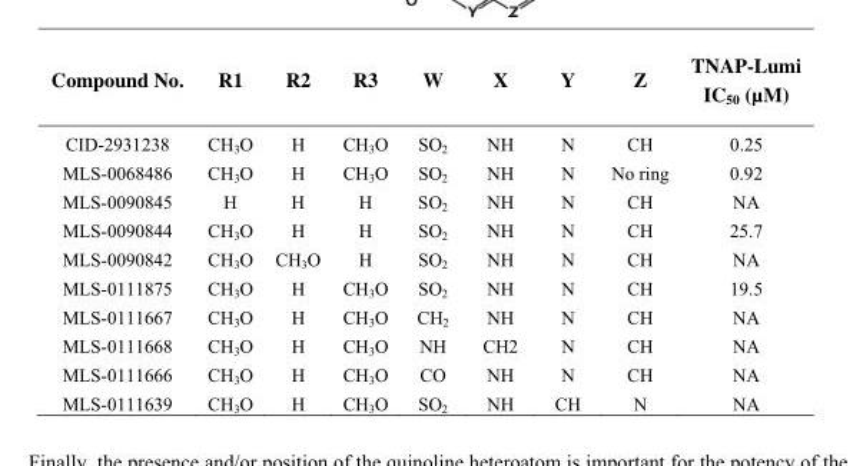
<table><thead><tr><td>Compound No.</td><td>R1</td><td>R2</td><td>R3</td><td>W</td><td>X</td><td>Y</td><td>Z</td><td>TNAP-Lumi IC<sub>50</sub> (µM)</td></tr></thead><tbody><tr><td>CID-2931238</td><td>CH<sub>3</sub>O</td><td>H</td><td>CH<sub>3</sub>O</td><td>SO<sub>2</sub></td><td>NH</td><td>N</td><td>CH</td><td>0.25</td></tr><tr><td>MLS-0068486</td><td>CH<sub>3</sub>O</td><td>H</td><td>CH<sub>3</sub>O</td><td>SO<sub>2</sub></td><td>NH</td><td>N</td><td>No ring</td><td>0.92</td></tr><tr><td>MLS-0090845</td><td>H</td><td>H</td><td>H</td><td>SO<sub>2</sub></td><td>NH</td><td>N</td><td>CH</td><td>NA</td></tr><tr><td>MLS-0090844</td><td>CH<sub>3</sub>O</td><td>H</td><td>H</td><td>SO<sub>2</sub></td><td>NH</td><td>N</td><td>CH</td><td>25.7</td></tr><tr><td>MLS-0090842</td><td>CH<sub>3</sub>O</td><td>CH<sub>3</sub>O</td><td>H</td><td>SO<sub>2</sub></td><td>NH</td><td>N</td><td>CH</td><td>NA</td></tr><tr><td>MLS-0111875</td><td>CH<sub>3</sub>O</td><td>H</td><td>CH<sub>3</sub>O</td><td>SO<sub>2</sub></td><td>NH</td><td>N</td><td>CH</td><td>19.5</td></tr><tr><td>MLS-0111667</td><td>CH<sub>3</sub>O</td><td>H</td><td>CH<sub>3</sub>O</td><td>CH<sub>2</sub></td><td>NH</td><td>N</td><td>CH</td><td>NA</td></tr><tr><td>MLS-0111668</td><td>CH<sub>3</sub>O</td><td>H</td><td>CH<sub>3</sub>O</td><td>NH</td><td>CH2</td><td>N</td><td>CH</td><td>NA</td></tr><tr><td>MLS-0111666</td><td>CH<sub>3</sub>O</td><td>H</td><td>CH<sub>3</sub>O</td><td>CO</td><td>NH</td><td>N</td><td>CH</td><td>NA</td></tr><tr><td>MLS-0111639</td><td>CH<sub>3</sub>O</td><td>H</td><td>CH<sub>3</sub>O</td><td>SO<sub>2</sub></td><td>NH</td><td>CH</td><td>N</td><td>NA</td></tr></tbody></table>